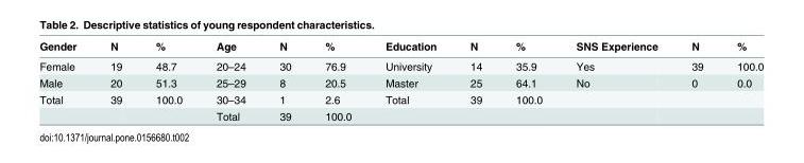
<table><thead><tr><td>Gender</td><td>N</td><td>%</td><td>Age</td><td>N</td><td>%</td><td>Education</td><td>N</td><td>%</td><td>SNS Experience</td><td>N</td><td>%</td></tr></thead><tbody><tr><td>Female</td><td>19</td><td>48.7</td><td>20–24</td><td>30</td><td>76.9</td><td>University</td><td>14</td><td>35.9</td><td>Yes</td><td>39</td><td>100.0</td></tr><tr><td>Male</td><td>20</td><td>51.3</td><td>25–29</td><td>8</td><td>20.5</td><td>Master</td><td>25</td><td>64.1</td><td>No</td><td>0</td><td>0.0</td></tr><tr><td rowspan="2">Total</td><td>39</td><td>100.0</td><td>30–34</td><td>1</td><td>2.6</td><td>Total</td><td>39</td><td>100.0</td><td></td><td></td><td></td></tr><tr><td></td><td></td><td>Total</td><td>39</td><td>100.0</td><td></td><td></td><td></td><td></td><td></td><td></td></tr></tbody></table>